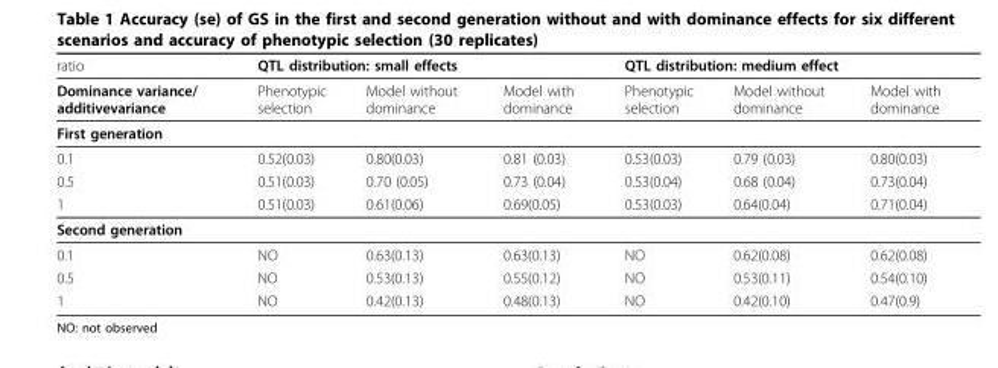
<table><thead><tr><td rowspan="2">ratio Dominance variance/ additivevariance</td><td colspan="3">QTL distribution: small effects</td><td colspan="3">QTL distribution: medium effect</td></tr><tr><td>Phenotypic selection</td><td>Model without dominance</td><td>Model with dominance</td><td>Phenotypic selection</td><td>Model without dominance</td><td>Model with dominance</td></tr></thead><tbody><tr><td colspan="7">First generation</td></tr><tr><td>0.1</td><td>0.52(0.03)</td><td>0.80(0.03)</td><td>0.81 (0.03)</td><td>0.53(0.03)</td><td>0.79 (0.03)</td><td>0.80(0.03)</td></tr><tr><td>0.5</td><td>0.51(0.03)</td><td>0.70 (0.05)</td><td>0.73 (0.04)</td><td>0.53(0.04)</td><td>0.68 (0.04)</td><td>0.73(0.04)</td></tr><tr><td>1</td><td>0.51(0.03)</td><td>0.61(0.06)</td><td>0.69(0.05)</td><td>0.53(0.03)</td><td>0.64(0.04)</td><td>0.71(0.04)</td></tr><tr><td colspan="7">Second generation</td></tr><tr><td>0.1</td><td>NO</td><td>0.63(0.13)</td><td>0.63(0.13)</td><td>NO</td><td>0.62(0.08)</td><td>0.62(0.08)</td></tr><tr><td>0.5</td><td>NO</td><td>0.53(0.13)</td><td>0.55(0.12)</td><td>NO</td><td>0.53(0.11)</td><td>0.54(0.10)</td></tr><tr><td>1</td><td>NO</td><td>0.42(0.13)</td><td>0.48(0.13)</td><td>NO</td><td>0.42(0.10)</td><td>0.47(0.9)</td></tr></tbody></table>